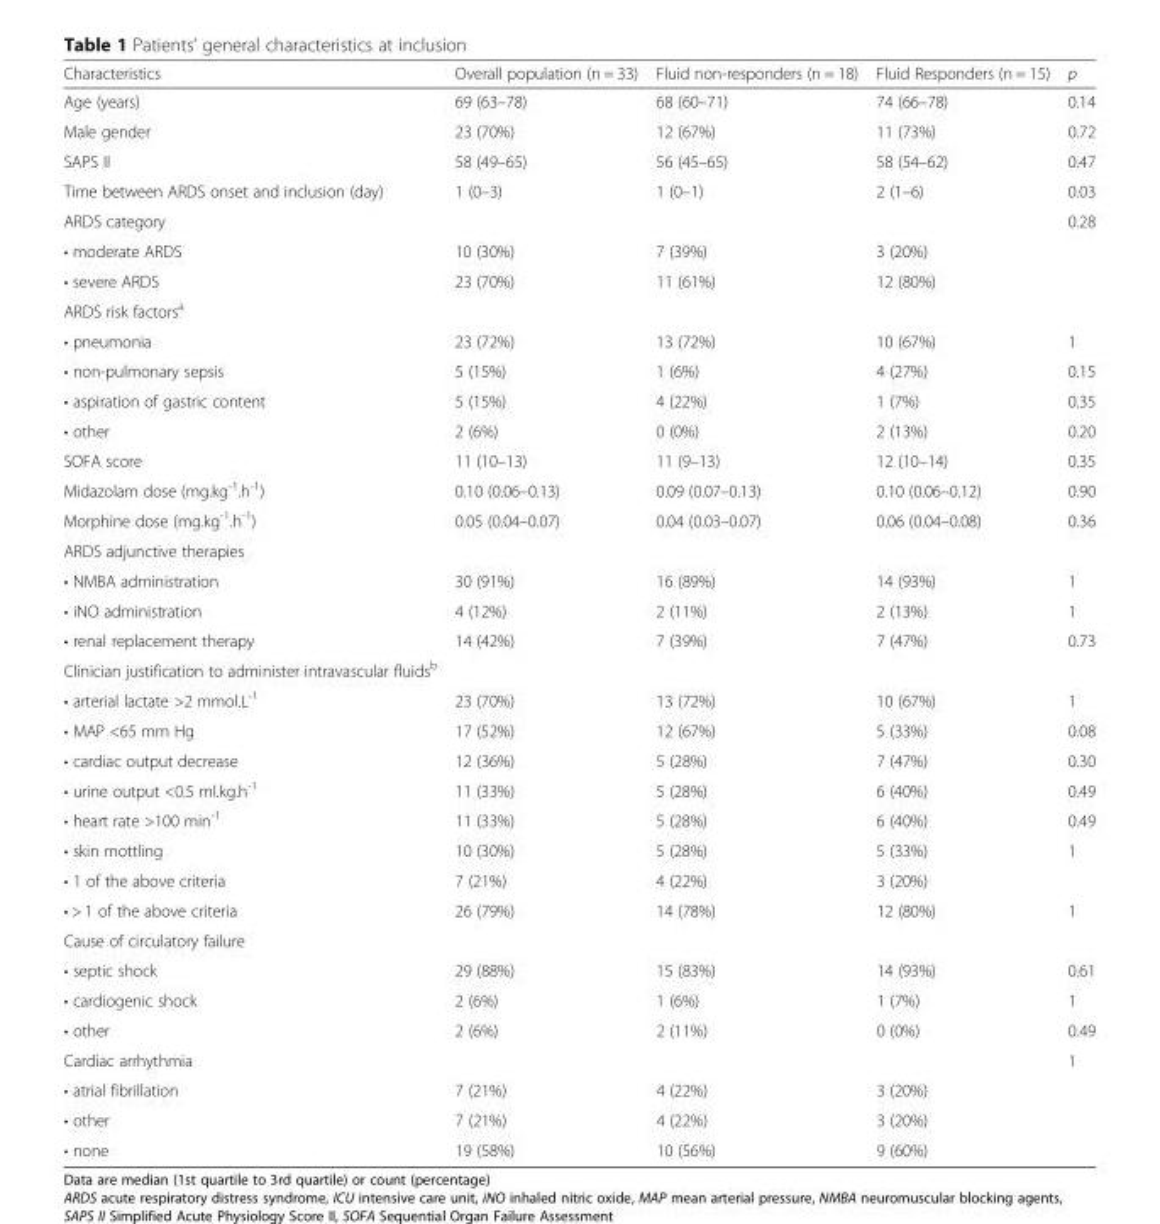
<table><thead><tr><td>Characteristics</td><td>Overall population (n = 33)</td><td>Fluid non-responders (n = 18)</td><td>Fluid Responders (n = 15)</td><td>p</td></tr></thead><tbody><tr><td>Age (years)</td><td>69 (63–78)</td><td>68 (60–71)</td><td>74 (66–78)</td><td>0.14</td></tr><tr><td>Male gender</td><td>23 (70%)</td><td>12 (67%)</td><td>11 (73%)</td><td>0.72</td></tr><tr><td>SAPS II</td><td>58 (49–65)</td><td>56 (45–65)</td><td>58 (54–62)</td><td>0.47</td></tr><tr><td>Time between ARDS onset and inclusion (day)</td><td>1 (0–3)</td><td>1 (0–1)</td><td>2 (1–6)</td><td>0.03</td></tr><tr><td>ARDS category</td><td></td><td></td><td></td><td>0.28</td></tr><tr><td>• moderate ARDS</td><td>10 (30%)</td><td>7 (39%)</td><td>3 (20%)</td><td></td></tr><tr><td>• severe ARDS</td><td>23 (70%)</td><td>11 (61%)</td><td>12 (80%)</td><td></td></tr><tr><td colspan="5">ARDS risk factors<sup>a</sup></td></tr><tr><td>• pneumonia</td><td>23 (72%)</td><td>13 (72%)</td><td>10 (67%)</td><td>1</td></tr><tr><td>• non-pulmonary sepsis</td><td>5 (15%)</td><td>1 (6%)</td><td>4 (27%)</td><td>0.15</td></tr><tr><td>• aspiration of gastric content</td><td>5 (15%)</td><td>4 (22%)</td><td>1 (7%)</td><td>0.35</td></tr><tr><td>• other</td><td>2 (6%)</td><td>0 (0%)</td><td>2 (13%)</td><td>0.20</td></tr><tr><td>SOFA score</td><td>11 (10–13)</td><td>11 (9–13)</td><td>12 (10–14)</td><td>0.35</td></tr><tr><td>Midazolam dose (mg.kg<sup>-1</sup>.h<sup>-1</sup>)</td><td>0.10 (0.06–0.13)</td><td>0.09 (0.07–0.13)</td><td>0.10 (0.06–0.12)</td><td>0.90</td></tr><tr><td>Morphine dose (mg.kg<sup>-1</sup>.h<sup>-1</sup>)</td><td>0.05 (0.04–0.07)</td><td>0.04 (0.03–0.07)</td><td>0.06 (0.04–0.08)</td><td>0.36</td></tr><tr><td colspan="5">ARDS adjunctive therapies</td></tr><tr><td>• NMBA administration</td><td>30 (91%)</td><td>16 (89%)</td><td>14 (93%)</td><td>1</td></tr><tr><td>• iNO administration</td><td>4 (12%)</td><td>2 (11%)</td><td>2 (13%)</td><td>1</td></tr><tr><td>• renal replacement therapy</td><td>14 (42%)</td><td>7 (39%)</td><td>7 (47%)</td><td>0.73</td></tr><tr><td colspan="5">Clinician justification to administer intravascular fluids<sup>b</sup></td></tr><tr><td>• arterial lactate &gt;2 mmol.L<sup>-1</sup></td><td>23 (70%)</td><td>13 (72%)</td><td>10 (67%)</td><td>1</td></tr><tr><td>• MAP &lt;65 mm Hg</td><td>17 (52%)</td><td>12 (67%)</td><td>5 (33%)</td><td>0.08</td></tr><tr><td>• cardiac output decrease</td><td>12 (36%)</td><td>5 (28%)</td><td>7 (47%)</td><td>0.30</td></tr><tr><td>• urine output &lt;0.5 ml.kg.h<sup>-1</sup></td><td>11 (33%)</td><td>5 (28%)</td><td>6 (40%)</td><td>0.49</td></tr><tr><td>• heart rate &gt;100 min<sup>-1</sup></td><td>11 (33%)</td><td>5 (28%)</td><td>6 (40%)</td><td>0.49</td></tr><tr><td>• skin mottling</td><td>10 (30%)</td><td>5 (28%)</td><td>5 (33%)</td><td>1</td></tr><tr><td>• 1 of the above criteria</td><td>7 (21%)</td><td>4 (22%)</td><td>3 (20%)</td><td></td></tr><tr><td>• &gt; 1 of the above criteria</td><td>26 (79%)</td><td>14 (78%)</td><td>12 (80%)</td><td>1</td></tr><tr><td colspan="5">Cause of circulatory failure</td></tr><tr><td>• septic shock</td><td>29 (88%)</td><td>15 (83%)</td><td>14 (93%)</td><td>0.61</td></tr><tr><td>• cardiogenic shock</td><td>2 (6%)</td><td>1 (6%)</td><td>1 (7%)</td><td>1</td></tr><tr><td>• other</td><td>2 (6%)</td><td>2 (11%)</td><td>0 (0%)</td><td>0.49</td></tr><tr><td>Cardiac arrhythmia</td><td></td><td></td><td></td><td>1</td></tr><tr><td>• atrial fibrillation</td><td>7 (21%)</td><td>4 (22%)</td><td>3 (20%)</td><td></td></tr><tr><td>• other</td><td>7 (21%)</td><td>4 (22%)</td><td>3 (20%)</td><td></td></tr><tr><td>• none</td><td>19 (58%)</td><td>10 (56%)</td><td>9 (60%)</td><td></td></tr></tbody></table>